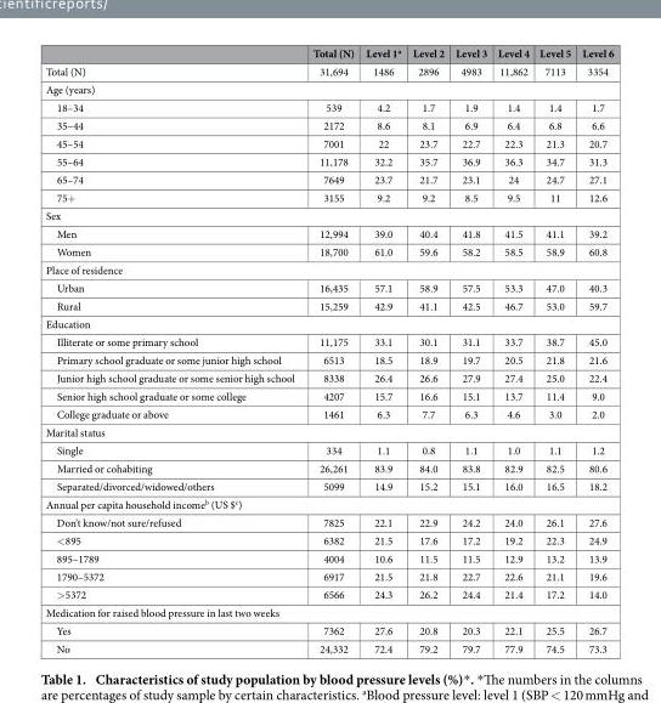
<table><thead><tr><td></td><td>Total (N)</td><td>Level 1<sup>a</sup></td><td>Level 2</td><td>Level 3</td><td>Level 4</td><td>Level 5</td><td>Level 6</td></tr></thead><tbody><tr><td>Total (N)</td><td>31,694</td><td>1486</td><td>2896</td><td>4983</td><td>11,862</td><td>7113</td><td>3354</td></tr><tr><td colspan="8">Age (years)</td></tr><tr><td>18–34</td><td>539</td><td>4.2</td><td>1.7</td><td>1.9</td><td>1.4</td><td>1.4</td><td>1.7</td></tr><tr><td>35–44</td><td>2172</td><td>8.6</td><td>8.1</td><td>6.9</td><td>6.4</td><td>6.8</td><td>6.6</td></tr><tr><td>45–54</td><td>7001</td><td>22</td><td>23.7</td><td>22.7</td><td>22.3</td><td>21.3</td><td>20.7</td></tr><tr><td>55–64</td><td>11,178</td><td>32.2</td><td>35.7</td><td>36.9</td><td>36.3</td><td>34.7</td><td>31.3</td></tr><tr><td>65–74</td><td>7649</td><td>23.7</td><td>21.7</td><td>23.1</td><td>24</td><td>24.7</td><td>27.1</td></tr><tr><td>75+</td><td>3155</td><td>9.2</td><td>9.2</td><td>8.5</td><td>9.5</td><td>11</td><td>12.6</td></tr><tr><td colspan="8">Sex</td></tr><tr><td>Men</td><td>12,994</td><td>39.0</td><td>40.4</td><td>41.8</td><td>41.5</td><td>41.1</td><td>39.2</td></tr><tr><td>Women</td><td>18,700</td><td>61.0</td><td>59.6</td><td>58.2</td><td>58.5</td><td>58.9</td><td>60.8</td></tr><tr><td colspan="8">Place of residence</td></tr><tr><td>Urban</td><td>16,435</td><td>57.1</td><td>58.9</td><td>57.5</td><td>53.3</td><td>47.0</td><td>40.3</td></tr><tr><td>Rural</td><td>15,259</td><td>42.9</td><td>41.1</td><td>42.5</td><td>46.7</td><td>53.0</td><td>59.7</td></tr><tr><td colspan="8">Education</td></tr><tr><td>Illiterate or some primary school</td><td>11,175</td><td>33.1</td><td>30.1</td><td>31.1</td><td>33.7</td><td>38.7</td><td>45.0</td></tr><tr><td>Primary school graduate or some junior high school</td><td>6513</td><td>18.5</td><td>18.9</td><td>19.7</td><td>20.5</td><td>21.8</td><td>21.6</td></tr><tr><td>Junior high school graduate or some senior high school</td><td>8338</td><td>26.4</td><td>26.6</td><td>27.9</td><td>27.4</td><td>25.0</td><td>22.4</td></tr><tr><td>Senior high school graduate or some college</td><td>4207</td><td>15.7</td><td>16.6</td><td>15.1</td><td>13.7</td><td>11.4</td><td>9.0</td></tr><tr><td>College graduate or above</td><td>1461</td><td>6.3</td><td>7.7</td><td>6.3</td><td>4.6</td><td>3.0</td><td>2.0</td></tr><tr><td colspan="8">Marital status</td></tr><tr><td>Single</td><td>334</td><td>1.1</td><td>0.8</td><td>1.1</td><td>1.0</td><td>1.1</td><td>1.2</td></tr><tr><td>Married or cohabiting</td><td>26,261</td><td>83.9</td><td>84.0</td><td>83.8</td><td>82.9</td><td>82.5</td><td>80.6</td></tr><tr><td>Separated/divorced/widowed/others</td><td>5099</td><td>14.9</td><td>15.2</td><td>15.1</td><td>16.0</td><td>16.5</td><td>18.2</td></tr><tr><td colspan="8">Annual per capita household income<sup>b</sup> (US $<sup>c</sup>)</td></tr><tr><td>Don’t know/not sure/refused</td><td>7825</td><td>22.1</td><td>22.9</td><td>24.2</td><td>24.0</td><td>26.1</td><td>27.6</td></tr><tr><td>&lt; 895</td><td>6382</td><td>21.5</td><td>17.6</td><td>17.2</td><td>19.2</td><td>22.3</td><td>24.9</td></tr><tr><td>895–1789</td><td>4004</td><td>10.6</td><td>11.5</td><td>11.5</td><td>12.9</td><td>13.2</td><td>13.9</td></tr><tr><td>1790–5372</td><td>6917</td><td>21.5</td><td>21.8</td><td>22.7</td><td>22.6</td><td>21.1</td><td>19.6</td></tr><tr><td>&gt; 5372</td><td>6566</td><td>24.3</td><td>26.2</td><td>24.4</td><td>21.4</td><td>17.2</td><td>14.0</td></tr><tr><td colspan="8">Medication for raised blood pressure in last two weeks</td></tr><tr><td>Yes</td><td>7362</td><td>27.6</td><td>20.8</td><td>20.3</td><td>22.1</td><td>25.5</td><td>26.7</td></tr><tr><td>No</td><td>24,332</td><td>72.4</td><td>79.2</td><td>79.7</td><td>77.9</td><td>74.5</td><td>73.3</td></tr></tbody></table>